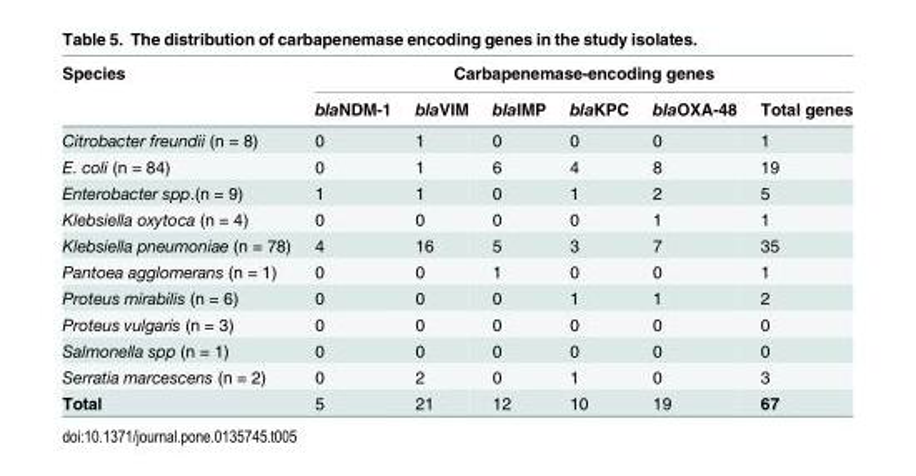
<table><thead><tr><td rowspan="2">Species</td><td colspan="6">Carbapenemase-encoding genes</td></tr><tr><td>blaNDM-1</td><td>blaVIM</td><td>blaIMP</td><td>blaKPC</td><td>blaOXA-48</td><td>Total genes</td></tr></thead><tbody><tr><td>Citrobacter freundii (n = 8)</td><td>0</td><td>1</td><td>0</td><td>0</td><td>0</td><td>1</td></tr><tr><td>E. coli (n = 84)</td><td>0</td><td>1</td><td>6</td><td>4</td><td>8</td><td>19</td></tr><tr><td>Enterobacter spp.(n = 9)</td><td>1</td><td>1</td><td>0</td><td>1</td><td>2</td><td>5</td></tr><tr><td>Klebsiella oxytoca (n = 4)</td><td>0</td><td>0</td><td>0</td><td>0</td><td>1</td><td>1</td></tr><tr><td>Klebsiella pneumoniae (n = 78)</td><td>4</td><td>16</td><td>5</td><td>3</td><td>7</td><td>35</td></tr><tr><td>Pantoea agglomerans (n = 1)</td><td>0</td><td>0</td><td>1</td><td>0</td><td>0</td><td>1</td></tr><tr><td>Proteus mirabilis (n = 6)</td><td>0</td><td>0</td><td>0</td><td>1</td><td>1</td><td>2</td></tr><tr><td>Proteus vulgaris (n = 3)</td><td>0</td><td>0</td><td>0</td><td>0</td><td>0</td><td>0</td></tr><tr><td>Salmonella spp (n = 1)</td><td>0</td><td>0</td><td>0</td><td>0</td><td>0</td><td>0</td></tr><tr><td>Serratia marcescens (n = 2)</td><td>0</td><td>2</td><td>0</td><td>1</td><td>0</td><td>3</td></tr><tr><td>Total</td><td>5</td><td>21</td><td>12</td><td>10</td><td>19</td><td>67</td></tr></tbody></table>